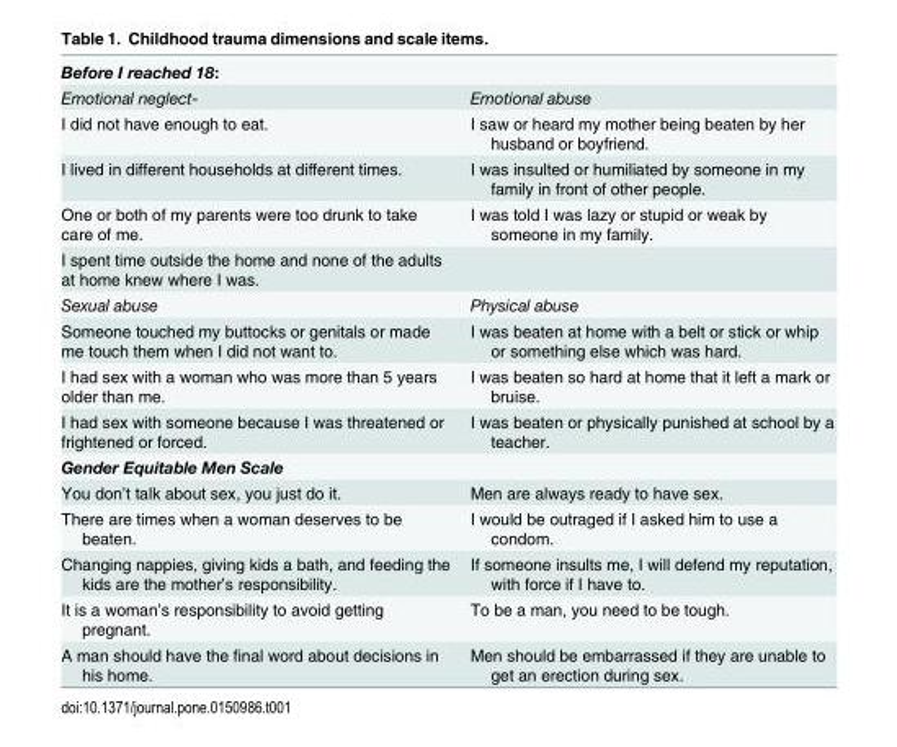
<table><tbody><tr><td colspan="2">Before I reached 18:</td></tr><tr><td>Emotional neglect-</td><td>Emotional abuse</td></tr><tr><td>I did not have enough to eat.</td><td>I saw or heard my mother being beaten by her husband or boyfriend.</td></tr><tr><td>I lived in different households at different times.</td><td>I was insulted or humiliated by someone in my family in front of other people.</td></tr><tr><td>One or both of my parents were too drunk to take care of me.</td><td>I was told I was lazy or stupid or weak by someone in my family.</td></tr><tr><td colspan="2">I spent time outside the home and none of the adults at home knew where I was.</td></tr><tr><td>Sexual abuse</td><td>Physical abuse</td></tr><tr><td>Someone touched my buttocks or genitals or made me touch them when I did not want to.</td><td>I was beaten at home with a belt or stick or whip or something else which was hard.</td></tr><tr><td>I had sex with a woman who was more than 5 years older than me.</td><td>I was beaten so hard at home that it left a mark or bruise.</td></tr><tr><td>I had sex with someone because I was threatened or frightened or forced.</td><td>I was beaten or physically punished at school by a teacher.</td></tr><tr><td colspan="2">Gender Equitable Men Scale</td></tr><tr><td>You don’t talk about sex, you just do it.</td><td>Men are always ready to have sex.</td></tr><tr><td>There are times when a woman deserves to be beaten.</td><td>I would be outraged if I asked him to use a condom.</td></tr><tr><td>Changing nappies, giving kids a bath, and feeding the kids are the mother’s responsibility.</td><td>If someone insults me, I will defend my reputation, with force if I have to.</td></tr><tr><td>It is a woman’s responsibility to avoid getting pregnant.</td><td>To be a man, you need to be tough.</td></tr><tr><td>A man should have the final word about decisions in his home.</td><td>Men should be embarrassed if they are unable to get an erection during sex.</td></tr></tbody></table>